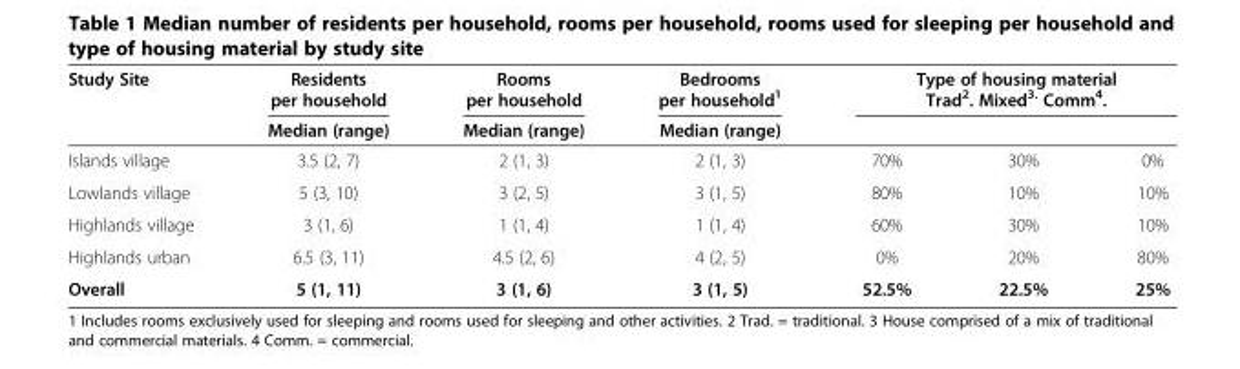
<table><thead><tr><td rowspan="2">Study Site</td><td rowspan="2">Residents per household Median (range)</td><td rowspan="2">Rooms per household Median (range)</td><td rowspan="2">Bedrooms per household<sup>1</sup> Median (range)</td><td colspan="3">Type of housing material Trad<sup>2</sup>. Mixed<sup>3.</sup> Comm<sup>4</sup>.</td></tr><tr><td></td><td></td><td></td></tr></thead><tbody><tr><td>Islands village</td><td>3.5 (2, 7)</td><td>2 (1, 3)</td><td>2 (1, 3)</td><td>70%</td><td>30%</td><td>0%</td></tr><tr><td>Lowlands village</td><td>5 (3, 10)</td><td>3 (2, 5)</td><td>3 (1, 5)</td><td>80%</td><td>10%</td><td>10%</td></tr><tr><td>Highlands village</td><td>3 (1, 6)</td><td>1 (1, 4)</td><td>1 (1, 4)</td><td>60%</td><td>30%</td><td>10%</td></tr><tr><td>Highlands urban</td><td>6.5 (3, 11)</td><td>4.5 (2, 6)</td><td>4 (2, 5)</td><td>0%</td><td>20%</td><td>80%</td></tr><tr><td>Overall</td><td>5 (1, 11)</td><td>3 (1, 6)</td><td>3 (1, 5)</td><td>52.5%</td><td>22.5%</td><td>25%</td></tr></tbody></table>